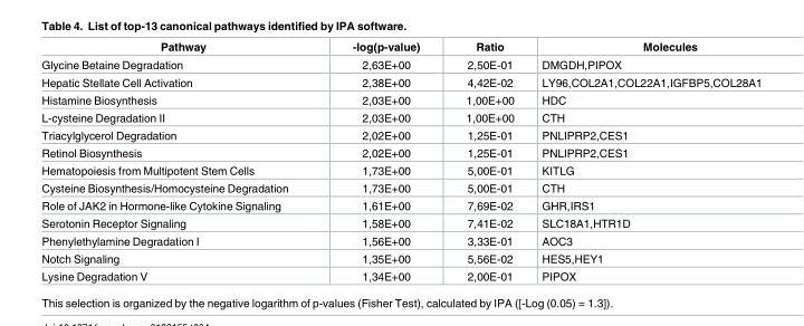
<table><thead><tr><td>Pathway</td><td>-log(p-value)</td><td>Ratio</td><td>Molecules</td></tr></thead><tbody><tr><td>Glycine Betaine Degradation</td><td>2,63E+00</td><td>2,50E-01</td><td>DMGDH,PIPOX</td></tr><tr><td>Hepatic Stellate Cell Activation</td><td>2,38E+00</td><td>4,42E-02</td><td>LY96,COL2A1,COL22A1,IGFBP5,COL28A1</td></tr><tr><td>Histamine Biosynthesis</td><td>2,03E+00</td><td>1,00E+00</td><td>HDC</td></tr><tr><td>L-cysteine Degradation II</td><td>2,03E+00</td><td>1,00E+00</td><td>CTH</td></tr><tr><td>Triacylglycerol Degradation</td><td>2,02E+00</td><td>1,25E-01</td><td>PNLIPRP2,CES1</td></tr><tr><td>Retinol Biosynthesis</td><td>2,02E+00</td><td>1,25E-01</td><td>PNLIPRP2,CES1</td></tr><tr><td>Hematopoiesis from Multipotent Stem Cells</td><td>1,73E+00</td><td>5,00E-01</td><td>KITLG</td></tr><tr><td>Cysteine Biosynthesis/Homocysteine Degradation</td><td>1,73E+00</td><td>5,00E-01</td><td>CTH</td></tr><tr><td>Role of JAK2 in Hormone-like Cytokine Signaling</td><td>1,61E+00</td><td>7,69E-02</td><td>GHR,IRS1</td></tr><tr><td>Serotonin Receptor Signaling</td><td>1,58E+00</td><td>7,41E-02</td><td>SLC18A1,HTR1D</td></tr><tr><td>Phenylethylamine Degradation I</td><td>1,56E+00</td><td>3,33E-01</td><td>AOC3</td></tr><tr><td>Notch Signaling</td><td>1,35E+00</td><td>5,56E-02</td><td>HES5,HEY1</td></tr><tr><td>Lysine Degradation V</td><td>1,34E+00</td><td>2,00E-01</td><td>PIPOX</td></tr></tbody></table>